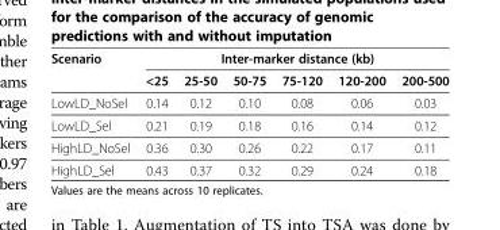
<table><thead><tr><td rowspan="2">Scenario</td><td colspan="6">Inter-marker distance (kb)</td></tr><tr><td>&lt;25</td><td>25-50</td><td>50-75</td><td>75-120</td><td>120-200</td><td>200-500</td></tr></thead><tbody><tr><td>LowLD_NoSel</td><td>0.14</td><td>0.12</td><td>0.10</td><td>0.08</td><td>0.06</td><td>0.03</td></tr><tr><td>LowLD_Sel</td><td>0.21</td><td>0.19</td><td>0.18</td><td>0.16</td><td>0.14</td><td>0.12</td></tr><tr><td>HighLD_NoSel</td><td>0.36</td><td>0.30</td><td>0.26</td><td>0.22</td><td>0.17</td><td>0.11</td></tr><tr><td>HighLD_Sel</td><td>0.43</td><td>0.37</td><td>0.32</td><td>0.29</td><td>0.24</td><td>0.18</td></tr></tbody></table>